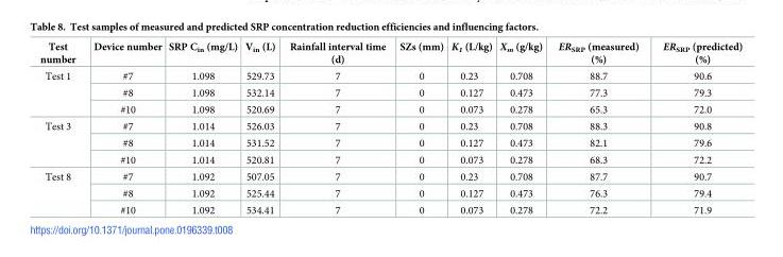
<table><thead><tr><td>Test number</td><td>Device number</td><td>SRP C<sub>in</sub> (mg/L)</td><td>V<sub>in</sub> (L)</td><td>Rainfall interval time (d)</td><td>SZs (mm)</td><td>K<sub>1</sub> (L/kg)</td><td>X<sub>m</sub> (g/kg)</td><td>ER<sub>SRP</sub> (measured) (%)</td><td>ER<sub>SRP</sub> (predicted) (%)</td></tr></thead><tbody><tr><td rowspan="3">Test 1</td><td>#7</td><td>1.098</td><td>529.73</td><td>7</td><td>0</td><td>0.23</td><td>0.708</td><td>88.7</td><td>90.6</td></tr><tr><td>#8</td><td>1.098</td><td>532.14</td><td>7</td><td>0</td><td>0.127</td><td>0.473</td><td>77.3</td><td>79.3</td></tr><tr><td>#10</td><td>1.098</td><td>520.69</td><td>7</td><td>0</td><td>0.073</td><td>0.278</td><td>65.3</td><td>72.0</td></tr><tr><td rowspan="3">Test 3</td><td>#7</td><td>1.014</td><td>526.03</td><td>7</td><td>0</td><td>0.23</td><td>0.708</td><td>88.3</td><td>90.8</td></tr><tr><td>#8</td><td>1.014</td><td>531.52</td><td>7</td><td>0</td><td>0.127</td><td>0.473</td><td>82.1</td><td>79.6</td></tr><tr><td>#10</td><td>1.014</td><td>520.81</td><td>7</td><td>0</td><td>0.073</td><td>0.278</td><td>68.3</td><td>72.2</td></tr><tr><td rowspan="3">Test 8</td><td>#7</td><td>1.092</td><td>507.05</td><td>7</td><td>0</td><td>0.23</td><td>0.708</td><td>87.7</td><td>90.7</td></tr><tr><td>#8</td><td>1.092</td><td>525.44</td><td>7</td><td>0</td><td>0.127</td><td>0.473</td><td>76.3</td><td>79.4</td></tr><tr><td>#10</td><td>1.092</td><td>534.41</td><td>7</td><td>0</td><td>0.073</td><td>0.278</td><td>72.2</td><td>71.9</td></tr></tbody></table>